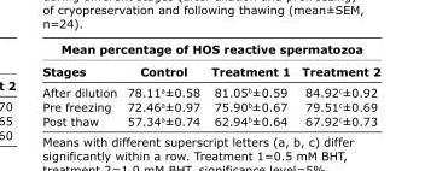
<table><thead><tr><td colspan="4">Mean percentage of HOS reactive spermatozoa</td></tr><tr><td>Stages</td><td>Control</td><td>Treatment 1</td><td>Treatment 2</td></tr></thead><tbody><tr><td>After dilution</td><td>78.11<sup>a</sup>±0.58</td><td>81.05<sup>b</sup>±0.59</td><td>84.92<sup>c</sup>±0.92</td></tr><tr><td>Pre freezing</td><td>72.46<sup>a</sup>±0.97</td><td>75.90<sup>b</sup>±0.67</td><td>79.51<sup>c</sup>±0.69</td></tr><tr><td>Post thaw</td><td>57.34<sup>a</sup>±0.74</td><td>62.94<sup>b</sup>±0.64</td><td>67.92<sup>c</sup>±0.73</td></tr></tbody></table>